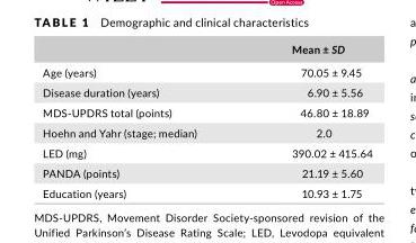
<table><thead><tr><td></td><td>Mean ± SD</td></tr></thead><tbody><tr><td>Age (years)</td><td>70.05 ± 9.45</td></tr><tr><td>Disease duration (years)</td><td>6.90 ± 5.56</td></tr><tr><td>MDS- UPDRS total (points)</td><td>46.80 ± 18.89</td></tr><tr><td>Hoehn and Yahr (stage; median)</td><td>2.0</td></tr><tr><td>LED (mg)</td><td>390.02 ± 415.64</td></tr><tr><td>PANDA (points)</td><td>21.19 ± 5.60</td></tr><tr><td>Education (years)</td><td>10.93 ± 1.75</td></tr></tbody></table>